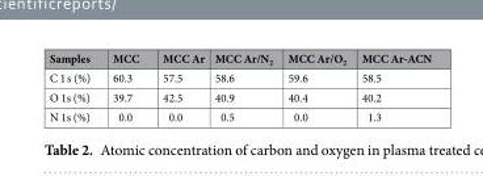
<table><thead><tr><td>Samples</td><td>MCC</td><td>MCC Ar</td><td>MCC Ar/N<sub>2</sub></td><td>MCC Ar/O<sub>2</sub></td><td>MCC Ar-ACN</td></tr></thead><tbody><tr><td>C 1 s (%)</td><td>60.3</td><td>57.5</td><td>58.6</td><td>59.6</td><td>58.5</td></tr><tr><td>O 1s (%)</td><td>39.7</td><td>42.5</td><td>40.9</td><td>40.4</td><td>40.2</td></tr><tr><td>N 1s (%)</td><td>0.0</td><td>0.0</td><td>0.5</td><td>0.0</td><td>1.3</td></tr></tbody></table>